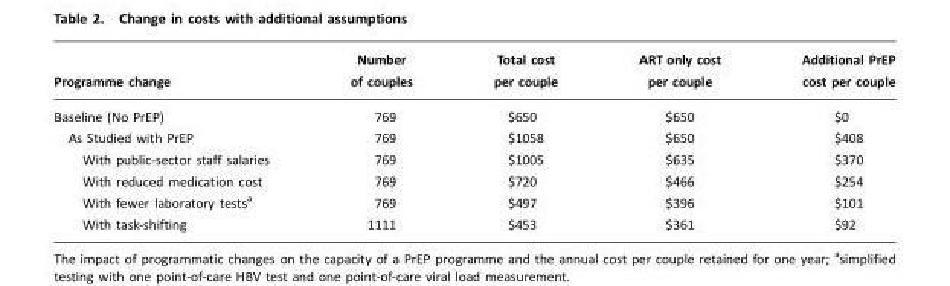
<table><thead><tr><td>Programme change</td><td>Number of couples</td><td>Total cost per couple</td><td>ART only cost per couple</td><td>Additional PrEP cost per couple</td></tr></thead><tbody><tr><td>Baseline (No PrEP)</td><td>769</td><td>$650</td><td>$650</td><td>$0</td></tr><tr><td>As Studied with PrEP</td><td>769</td><td>$1058</td><td>$650</td><td>$408</td></tr><tr><td>With public-sector staff salaries</td><td>769</td><td>$1005</td><td>$635</td><td>$370</td></tr><tr><td>With reduced medication cost</td><td>769</td><td>$720</td><td>$466</td><td>$254</td></tr><tr><td>With fewer laboratory testsa</td><td>769</td><td>$497</td><td>$396</td><td>$101</td></tr><tr><td>With task-shifting</td><td>1111</td><td>$453</td><td>$361</td><td>$92</td></tr></tbody></table>